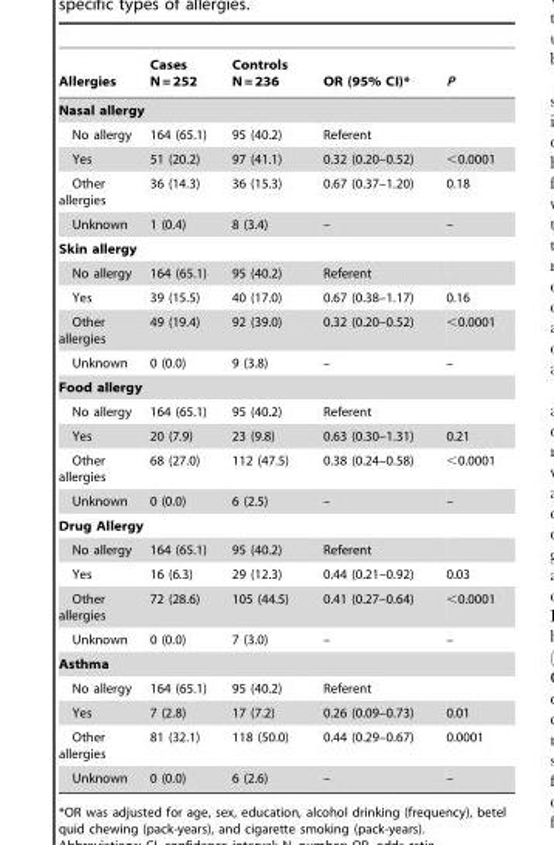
<table><thead><tr><td>Allergies</td><td>Cases N = 252</td><td>Controls N = 236</td><td>OR (95% CI)*</td><td>P</td></tr></thead><tbody><tr><td colspan="5">Nasal allergy</td></tr><tr><td>No allergy</td><td>164 (65.1)</td><td>95 (40.2)</td><td>Referent</td><td></td></tr><tr><td>Yes</td><td>51 (20.2)</td><td>97 (41.1)</td><td>0.32 (0.20–0.52)</td><td>&lt;0.0001</td></tr><tr><td>Other allergies</td><td>36 (14.3)</td><td>36 (15.3)</td><td>0.67 (0.37–1.20)</td><td>0.18</td></tr><tr><td>Unknown</td><td>1 (0.4)</td><td>8 (3.4)</td><td>–</td><td>–</td></tr><tr><td colspan="5">Skin allergy</td></tr><tr><td>No allergy</td><td>164 (65.1)</td><td>95 (40.2)</td><td>Referent</td><td></td></tr><tr><td>Yes</td><td>39 (15.5)</td><td>40 (17.0)</td><td>0.67 (0.38–1.17)</td><td>0.16</td></tr><tr><td>Other allergies</td><td>49 (19.4)</td><td>92 (39.0)</td><td>0.32 (0.20–0.52)</td><td>&lt;0.0001</td></tr><tr><td>Unknown</td><td>0 (0.0)</td><td>9 (3.8)</td><td>–</td><td>–</td></tr><tr><td colspan="5">Food allergy</td></tr><tr><td>No allergy</td><td>164 (65.1)</td><td>95 (40.2)</td><td>Referent</td><td></td></tr><tr><td>Yes</td><td>20 (7.9)</td><td>23 (9.8)</td><td>0.63 (0.30–1.31)</td><td>0.21</td></tr><tr><td>Other allergies</td><td>68 (27.0)</td><td>112 (47.5)</td><td>0.38 (0.24–0.58)</td><td>&lt;0.0001</td></tr><tr><td>Unknown</td><td>0 (0.0)</td><td>6 (2.5)</td><td>–</td><td>–</td></tr><tr><td colspan="5">Drug Allergy</td></tr><tr><td>No allergy</td><td>164 (65.1)</td><td>95 (40.2)</td><td>Referent</td><td></td></tr><tr><td>Yes</td><td>16 (6.3)</td><td>29 (12.3)</td><td>0.44 (0.21–0.92)</td><td>0.03</td></tr><tr><td>Other allergies</td><td>72 (28.6)</td><td>105 (44.5)</td><td>0.41 (0.27–0.64)</td><td>&lt;0.0001</td></tr><tr><td>Unknown</td><td>0 (0.0)</td><td>7 (3.0)</td><td>–</td><td>–</td></tr><tr><td colspan="5">Asthma</td></tr><tr><td>No allergy</td><td>164 (65.1)</td><td>95 (40.2)</td><td>Referent</td><td></td></tr><tr><td>Yes</td><td>7 (2.8)</td><td>17 (7.2)</td><td>0.26 (0.09–0.73)</td><td>0.01</td></tr><tr><td>Other allergies</td><td>81 (32.1)</td><td>118 (50.0)</td><td>0.44 (0.29–0.67)</td><td>0.0001</td></tr><tr><td>Unknown</td><td>0 (0.0)</td><td>6 (2.6)</td><td>–</td><td>–</td></tr></tbody></table>